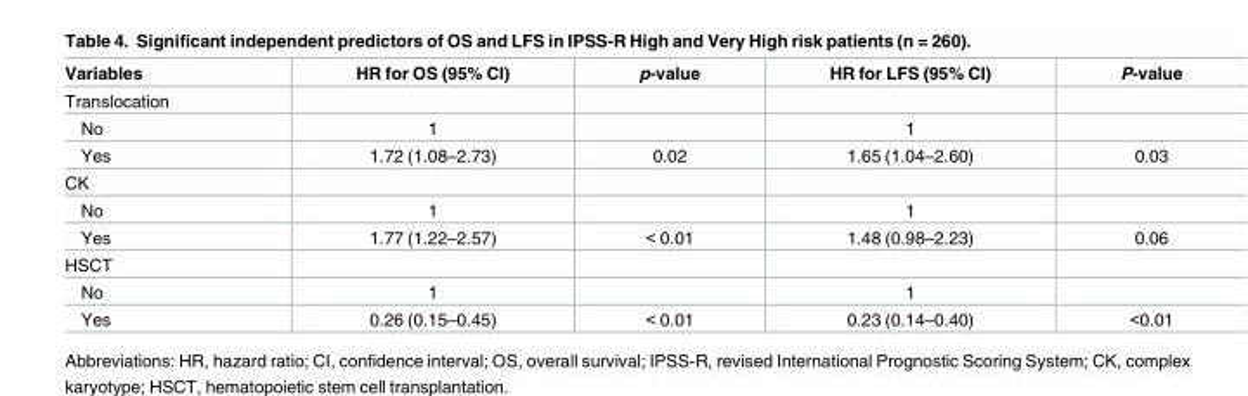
<table><thead><tr><td>Variables</td><td>HR for OS (95% CI)</td><td>p-value</td><td>HR for LFS (95% CI)</td><td>P-value</td></tr></thead><tbody><tr><td colspan="5">Translocation</td></tr><tr><td>No</td><td>1</td><td></td><td>1</td><td></td></tr><tr><td>Yes</td><td>1.72 (1.08–2.73)</td><td>0.02</td><td>1.65 (1.04–2.60)</td><td>0.03</td></tr><tr><td colspan="5">CK</td></tr><tr><td>No</td><td>1</td><td></td><td>1</td><td></td></tr><tr><td>Yes</td><td>1.77 (1.22–2.57)</td><td>&lt; 0.01</td><td>1.48 (0.98–2.23)</td><td>0.06</td></tr><tr><td colspan="5">HSCT</td></tr><tr><td>No</td><td>1</td><td></td><td>1</td><td></td></tr><tr><td>Yes</td><td>0.26 (0.15–0.45)</td><td>&lt; 0.01</td><td>0.23 (0.14–0.40)</td><td>&lt;0.01</td></tr></tbody></table>